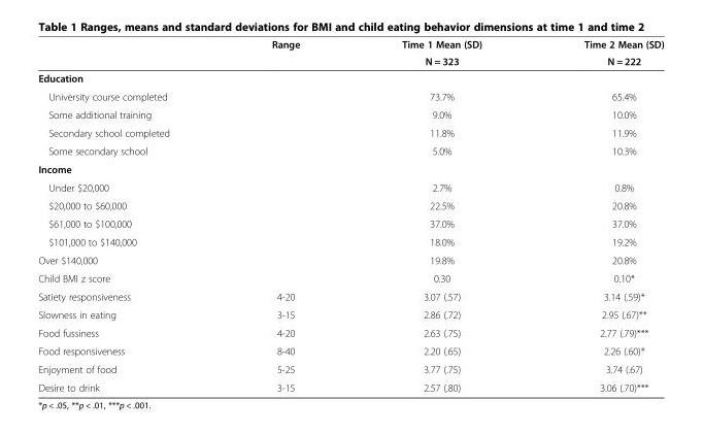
<table><thead><tr><td rowspan="2"></td><td rowspan="2">Range</td><td rowspan="2">Time 1 Mean (SD) N = 323</td><td rowspan="2">Time 2 Mean (SD) N = 222</td></tr><tr></tr></thead><tbody><tr><td colspan="4">Education</td></tr><tr><td>University course completed</td><td></td><td>73.7%</td><td>65.4%</td></tr><tr><td>Some additional training</td><td></td><td>9.0%</td><td>10.0%</td></tr><tr><td>Secondary school completed</td><td></td><td>11.8%</td><td>11.9%</td></tr><tr><td>Some secondary school</td><td></td><td>5.0%</td><td>10.3%</td></tr><tr><td colspan="4">Income</td></tr><tr><td>Under $20,000</td><td></td><td>2.7%</td><td>0.8%</td></tr><tr><td>$20,000 to $60,000</td><td></td><td>22.5%</td><td>20.8%</td></tr><tr><td>$61,000 to $100,000</td><td></td><td>37.0%</td><td>37.0%</td></tr><tr><td>$101,000 to $140,000</td><td></td><td>18.0%</td><td>19.2%</td></tr><tr><td>Over $140,000</td><td></td><td>19.8%</td><td>20.8%</td></tr><tr><td>Child BMI z score</td><td></td><td>0.30</td><td>0.10*</td></tr><tr><td>Satiety responsiveness</td><td>4-20</td><td>3.07 (.57)</td><td>3.14 (.59)*</td></tr><tr><td>Slowness in eating</td><td>3-15</td><td>2.86 (.72)</td><td>2.95 (.67)**</td></tr><tr><td>Food fussiness</td><td>4-20</td><td>2.63 (.75)</td><td>2.77 (.79)***</td></tr><tr><td>Food responsiveness</td><td>8-40</td><td>2.20 (.65)</td><td>2.26 (.60)*</td></tr><tr><td>Enjoyment of food</td><td>5-25</td><td>3.77 (.75)</td><td>3.74 (.67)</td></tr><tr><td>Desire to drink</td><td>3-15</td><td>2.57 (.80)</td><td>3.06 (.70)***</td></tr></tbody></table>